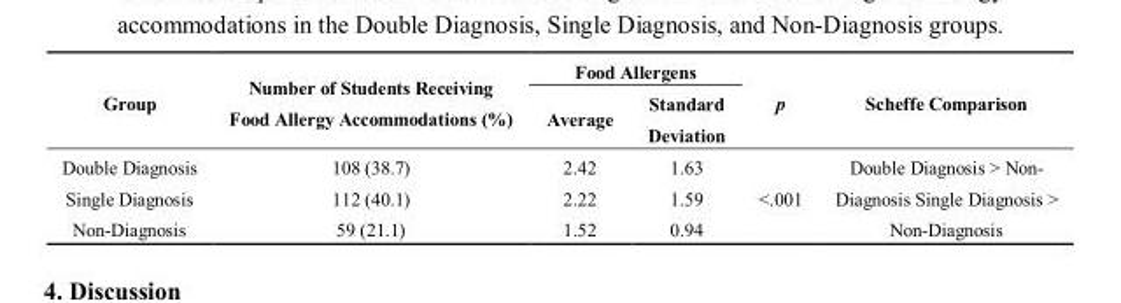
<table><thead><tr><td rowspan="2">Group</td><td rowspan="2">Number of Students Receiving Food Allergy Accommodations (%)</td><td colspan="2">Food Allergens</td><td rowspan="2">p</td><td rowspan="2">Scheffe Comparison</td></tr><tr><td>Average</td><td>Standard Deviation</td></tr></thead><tbody><tr><td>Double Diagnosis</td><td>108 (38.7)</td><td>2.42</td><td>1.63</td><td></td><td rowspan="3">Double Diagnosis &gt; Non- Diagnosis Single Diagnosis &gt; Non-Diagnosis</td></tr><tr><td>Single Diagnosis</td><td>112 (40.1)</td><td>2.22</td><td>1.59</td><td>&lt;.001</td></tr><tr><td>Non-Diagnosis</td><td>59 (21.1)</td><td>1.52</td><td>0.94</td><td></td></tr></tbody></table>